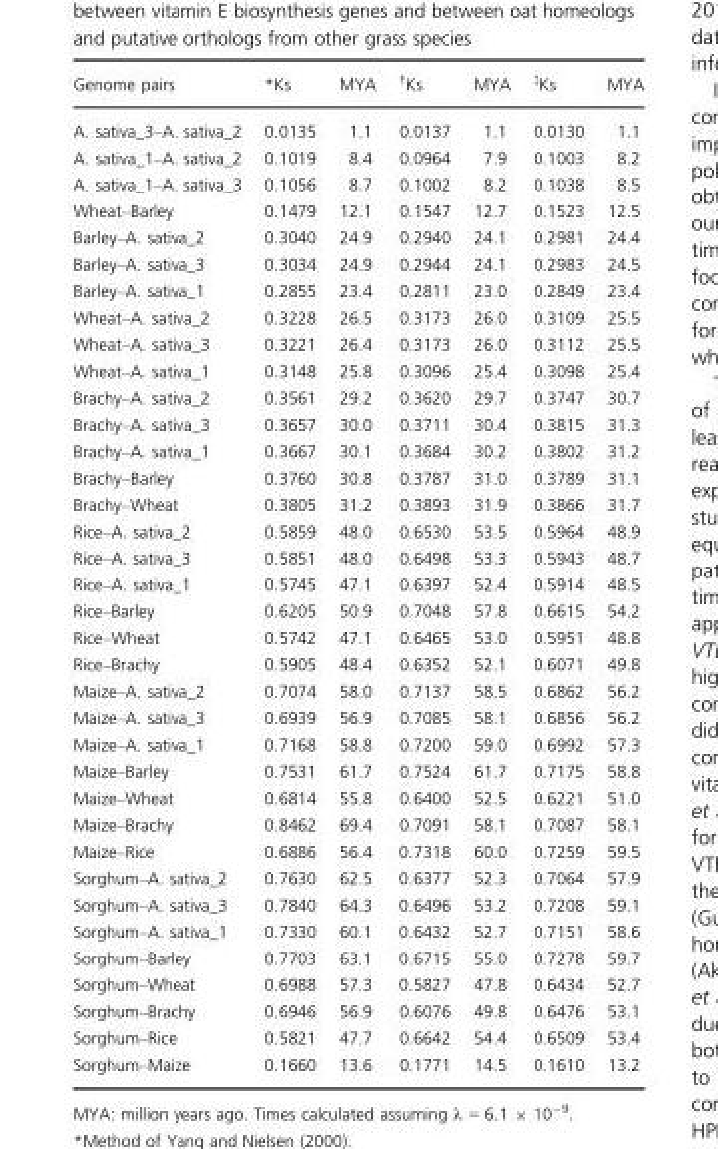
<table><thead><tr><td>Genome pairs</td><td>*Ks</td><td>MYA</td><td>†Ks</td><td>MYA</td><td>‡Ks</td><td>MYA</td></tr></thead><tbody><tr><td>A. sativa_3–A. sativa_2</td><td>0.0135</td><td>1.1</td><td>0.0137</td><td>1.1</td><td>0.0130</td><td>1.1</td></tr><tr><td>A. sativa_1–A. sativa_2</td><td>0.1019</td><td>8.4</td><td>0.0964</td><td>7.9</td><td>0.1003</td><td>8.2</td></tr><tr><td>A. sativa_1–A. sativa_3</td><td>0.1056</td><td>8.7</td><td>0.1002</td><td>8.2</td><td>0.1038</td><td>8.5</td></tr><tr><td>Wheat–Barley</td><td>0.1479</td><td>12.1</td><td>0.1547</td><td>12.7</td><td>0.1523</td><td>12.5</td></tr><tr><td>Barley–A. sativa_2</td><td>0.3040</td><td>24.9</td><td>0.2940</td><td>24.1</td><td>0.2981</td><td>24.4</td></tr><tr><td>Barley–A. sativa_3</td><td>0.3034</td><td>24.9</td><td>0.2944</td><td>24.1</td><td>0.2983</td><td>24.5</td></tr><tr><td>Barley–A. sativa_1</td><td>0.2855</td><td>23.4</td><td>0.2811</td><td>23.0</td><td>0.2849</td><td>23.4</td></tr><tr><td>Wheat–A. sativa_2</td><td>0.3228</td><td>26.5</td><td>0.3173</td><td>26.0</td><td>0.3109</td><td>25.5</td></tr><tr><td>Wheat–A. sativa_3</td><td>0.3221</td><td>26.4</td><td>0.3173</td><td>26.0</td><td>0.3112</td><td>25.5</td></tr><tr><td>Wheat–A. sativa_1</td><td>0.3148</td><td>25.8</td><td>0.3096</td><td>25.4</td><td>0.3098</td><td>25.4</td></tr><tr><td>Brachy–A. sativa_2</td><td>0.3561</td><td>29.2</td><td>0.3620</td><td>29.7</td><td>0.3747</td><td>30.7</td></tr><tr><td>Brachy–A. sativa_3</td><td>0.3657</td><td>30.0</td><td>0.3711</td><td>30.4</td><td>0.3815</td><td>31.3</td></tr><tr><td>Brachy–A. sativa_1</td><td>0.3667</td><td>30.1</td><td>0.3684</td><td>30.2</td><td>0.3802</td><td>31.2</td></tr><tr><td>Brachy–Barley</td><td>0.3760</td><td>30.8</td><td>0.3787</td><td>31.0</td><td>0.3789</td><td>31.1</td></tr><tr><td>Brachy–Wheat</td><td>0.3805</td><td>31.2</td><td>0.3893</td><td>31.9</td><td>0.3866</td><td>31.7</td></tr><tr><td>Rice–A. sativa_2</td><td>0.5859</td><td>48.0</td><td>0.6530</td><td>53.5</td><td>0.5964</td><td>48.9</td></tr><tr><td>Rice–A. sativa_3</td><td>0.5851</td><td>48.0</td><td>0.6498</td><td>53.3</td><td>0.5943</td><td>48.7</td></tr><tr><td>Rice–A. sativa_1</td><td>0.5745</td><td>47.1</td><td>0.6397</td><td>52.4</td><td>0.5914</td><td>48.5</td></tr><tr><td>Rice–Barley</td><td>0.6205</td><td>50.9</td><td>0.7048</td><td>57.8</td><td>0.6615</td><td>54.2</td></tr><tr><td>Rice–Wheat</td><td>0.5742</td><td>47.1</td><td>0.6465</td><td>53.0</td><td>0.5951</td><td>48.8</td></tr><tr><td>Rice–Brachy</td><td>0.5905</td><td>48.4</td><td>0.6352</td><td>52.1</td><td>0.6071</td><td>49.8</td></tr><tr><td>Maize–A. sativa_2</td><td>0.7074</td><td>58.0</td><td>0.7137</td><td>58.5</td><td>0.6862</td><td>56.2</td></tr><tr><td>Maize–A. sativa_3</td><td>0.6939</td><td>56.9</td><td>0.7085</td><td>58.1</td><td>0.6856</td><td>56.2</td></tr><tr><td>Maize–A. sativa_1</td><td>0.7168</td><td>58.8</td><td>0.7200</td><td>59.0</td><td>0.6992</td><td>57.3</td></tr><tr><td>Maize–Barley</td><td>0.7531</td><td>61.7</td><td>0.7524</td><td>61.7</td><td>0.7175</td><td>58.8</td></tr><tr><td>Maize–Wheat</td><td>0.6814</td><td>55.8</td><td>0.6400</td><td>52.5</td><td>0.6221</td><td>51.0</td></tr><tr><td>Maize–Brachy</td><td>0.8462</td><td>69.4</td><td>0.7091</td><td>58.1</td><td>0.7087</td><td>58.1</td></tr><tr><td>Maize–Rice</td><td>0.6886</td><td>56.4</td><td>0.7318</td><td>60.0</td><td>0.7259</td><td>59.5</td></tr><tr><td>Sorghum–A. sativa_2</td><td>0.7630</td><td>62.5</td><td>0.6377</td><td>52.3</td><td>0.7064</td><td>57.9</td></tr><tr><td>Sorghum–A. sativa_3</td><td>0.7840</td><td>64.3</td><td>0.6496</td><td>53.2</td><td>0.7208</td><td>59.1</td></tr><tr><td>Sorghum–A. sativa_1</td><td>0.7330</td><td>60.1</td><td>0.6432</td><td>52.7</td><td>0.7151</td><td>58.6</td></tr><tr><td>Sorghum–Barley</td><td>0.7703</td><td>63.1</td><td>0.6715</td><td>55.0</td><td>0.7278</td><td>59.7</td></tr><tr><td>Sorghum–Wheat</td><td>0.6988</td><td>57.3</td><td>0.5827</td><td>47.8</td><td>0.6434</td><td>52.7</td></tr><tr><td>Sorghum–Brachy</td><td>0.6946</td><td>56.9</td><td>0.6076</td><td>49.8</td><td>0.6476</td><td>53.1</td></tr><tr><td>Sorghum–Rice</td><td>0.5821</td><td>47.7</td><td>0.6642</td><td>54.4</td><td>0.6509</td><td>53.4</td></tr><tr><td>Sorghum–Maize</td><td>0.1660</td><td>13.6</td><td>0.1771</td><td>14.5</td><td>0.1610</td><td>13.2</td></tr></tbody></table>